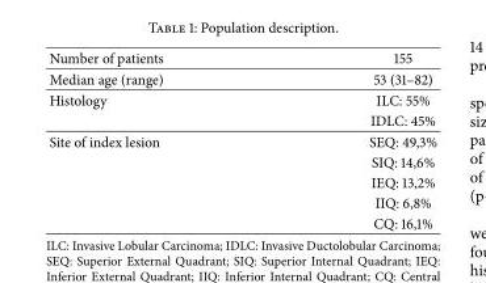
<table><tbody><tr><td>Number of patients</td><td>155</td></tr><tr><td>Median age (range)</td><td>53 (31–82)</td></tr><tr><td rowspan="2">Histology</td><td>ILC: 55%</td></tr><tr><td>IDLC: 45%</td></tr><tr><td rowspan="5">Site of index lesion</td><td>SEQ: 49,3%</td></tr><tr><td>SIQ: 14,6%</td></tr><tr><td>IEQ: 13,2%</td></tr><tr><td>IIQ: 6,8%</td></tr><tr><td>CQ: 16,1%</td></tr></tbody></table>